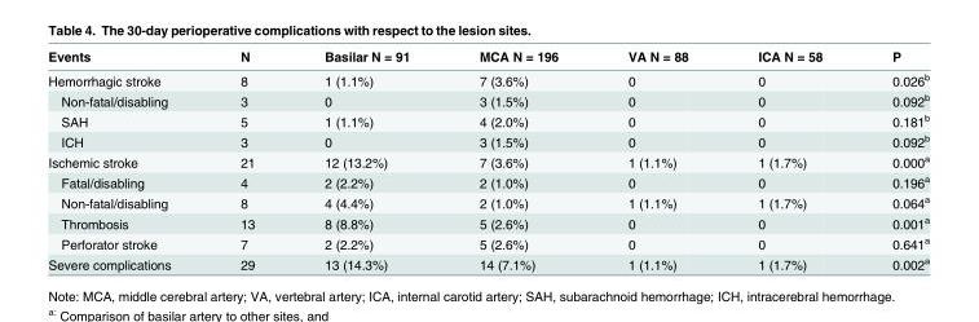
<table><thead><tr><td>Events</td><td>N</td><td>Basilar N = 91</td><td>MCA N = 196</td><td>VA N = 88</td><td>ICA N = 58</td><td>P</td></tr></thead><tbody><tr><td>Hemorrhagic stroke</td><td>8</td><td>1 (1.1%)</td><td>7 (3.6%)</td><td>0</td><td>0</td><td>0.026<sup>b</sup></td></tr><tr><td>Non-fatal/disabling</td><td>3</td><td>0</td><td>3 (1.5%)</td><td>0</td><td>0</td><td>0.092<sup>b</sup></td></tr><tr><td>SAH</td><td>5</td><td>1 (1.1%)</td><td>4 (2.0%)</td><td>0</td><td>0</td><td>0.181<sup>b</sup></td></tr><tr><td>ICH</td><td>3</td><td>0</td><td>3 (1.5%)</td><td>0</td><td>0</td><td>0.092<sup>b</sup></td></tr><tr><td>Ischemic stroke</td><td>21</td><td>12 (13.2%)</td><td>7 (3.6%)</td><td>1 (1.1%)</td><td>1 (1.7%)</td><td>0.000<sup>a</sup></td></tr><tr><td>Fatal/disabling</td><td>4</td><td>2 (2.2%)</td><td>2 (1.0%)</td><td>0</td><td>0</td><td>0.196<sup>a</sup></td></tr><tr><td>Non-fatal/disabling</td><td>8</td><td>4 (4.4%)</td><td>2 (1.0%)</td><td>1 (1.1%)</td><td>1 (1.7%)</td><td>0.064<sup>a</sup></td></tr><tr><td>Thrombosis</td><td>13</td><td>8 (8.8%)</td><td>5 (2.6%)</td><td>0</td><td>0</td><td>0.001<sup>a</sup></td></tr><tr><td>Perforator stroke</td><td>7</td><td>2 (2.2%)</td><td>5 (2.6%)</td><td>0</td><td>0</td><td>0.641<sup>a</sup></td></tr><tr><td>Severe complications</td><td>29</td><td>13 (14.3%)</td><td>14 (7.1%)</td><td>1 (1.1%)</td><td>1 (1.7%)</td><td>0.002<sup>a</sup></td></tr></tbody></table>